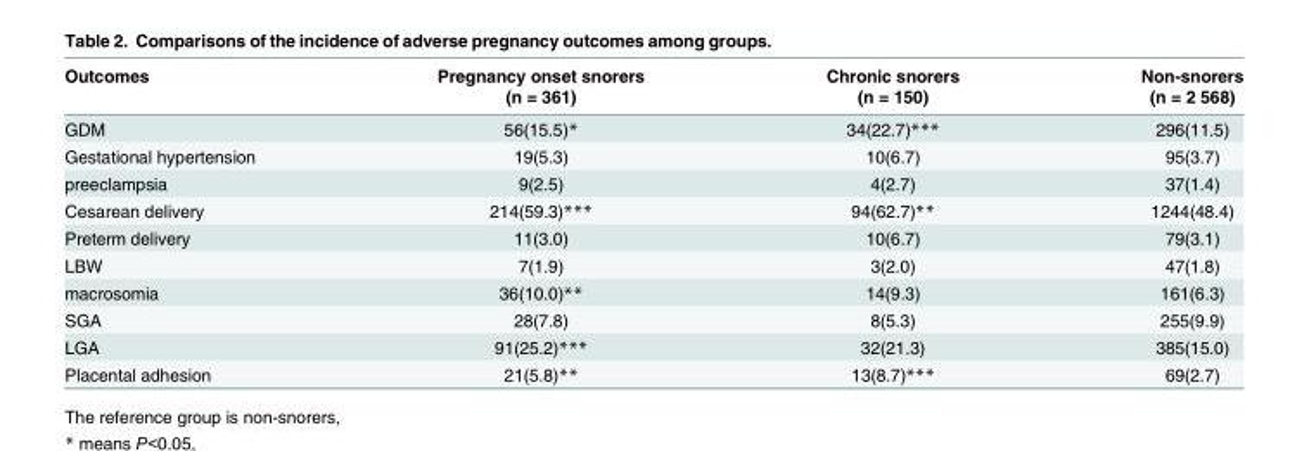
<table><thead><tr><td rowspan="2">Outcomes</td><td rowspan="2">Pregnancy onset snorers (n = 361)</td><td rowspan="2">Chronic snorers (n = 150)</td><td rowspan="2">Non-snorers (n = 2 568)</td></tr><tr></tr></thead><tbody><tr><td>GDM</td><td>56(15.5)*</td><td>34(22.7)***</td><td>296(11.5)</td></tr><tr><td>Gestational hypertension</td><td>19(5.3)</td><td>10(6.7)</td><td>95(3.7)</td></tr><tr><td>preeclampsia</td><td>9(2.5)</td><td>4(2.7)</td><td>37(1.4)</td></tr><tr><td>Cesarean delivery</td><td>214(59.3)***</td><td>94(62.7)**</td><td>1244(48.4)</td></tr><tr><td>Preterm delivery</td><td>11(3.0)</td><td>10(6.7)</td><td>79(3.1)</td></tr><tr><td>LBW</td><td>7(1.9)</td><td>3(2.0)</td><td>47(1.8)</td></tr><tr><td>macrosomia</td><td>36(10.0)**</td><td>14(9.3)</td><td>161(6.3)</td></tr><tr><td>SGA</td><td>28(7.8)</td><td>8(5.3)</td><td>255(9.9)</td></tr><tr><td>LGA</td><td>91(25.2)***</td><td>32(21.3)</td><td>385(15.0)</td></tr><tr><td>Placental adhesion</td><td>21(5.8)**</td><td>13(8.7)***</td><td>69(2.7)</td></tr></tbody></table>